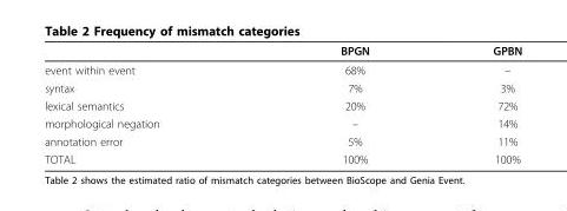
<table><thead><tr><td></td><td>BPGN</td><td>GPBN</td></tr></thead><tbody><tr><td>event within event</td><td>68%</td><td>–</td></tr><tr><td>syntax</td><td>7%</td><td>3%</td></tr><tr><td>lexical semantics</td><td>20%</td><td>72%</td></tr><tr><td>morphological negation</td><td>–</td><td>14%</td></tr><tr><td>annotation error</td><td>5%</td><td>11%</td></tr><tr><td>TOTAL</td><td>100%</td><td>100%</td></tr></tbody></table>